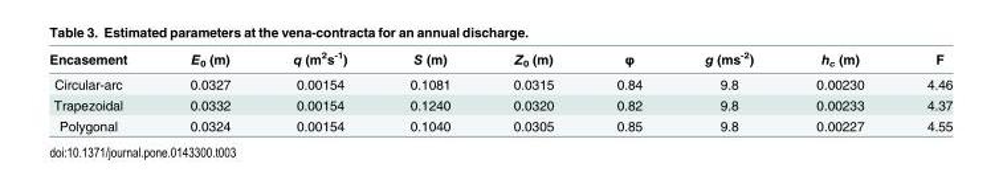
<table><thead><tr><td>Encasement</td><td>E<sub>0</sub> (m)</td><td>q (m<sup>2</sup>s<sup>-1</sup>)</td><td>S (m)</td><td>Z<sub>0</sub> (m)</td><td>φ</td><td>g (ms<sup>-2</sup>)</td><td>h<sub>c</sub> (m)</td><td>F</td></tr></thead><tbody><tr><td>Circular-arc</td><td>0.0327</td><td>0.00154</td><td>0.1081</td><td>0.0315</td><td>0.84</td><td>9.8</td><td>0.00230</td><td>4.46</td></tr><tr><td>Trapezoidal</td><td>0.0332</td><td>0.00154</td><td>0.1240</td><td>0.0320</td><td>0.82</td><td>9.8</td><td>0.00233</td><td>4.37</td></tr><tr><td>Polygonal</td><td>0.0324</td><td>0.00154</td><td>0.1040</td><td>0.0305</td><td>0.85</td><td>9.8</td><td>0.00227</td><td>4.55</td></tr></tbody></table>